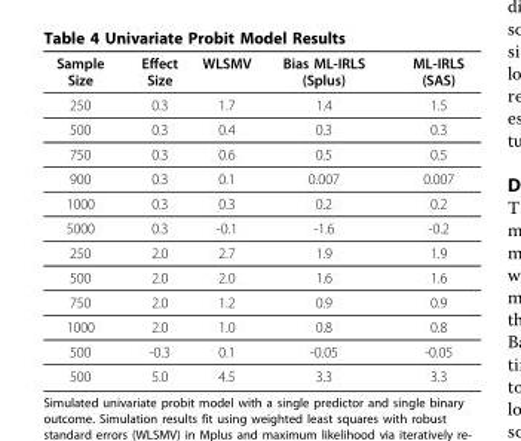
<table><thead><tr><td>Sample Size</td><td>Effect Size</td><td>WLSMV</td><td>Bias ML-IRLS (Splus)</td><td>ML-IRLS (SAS)</td></tr></thead><tbody><tr><td>250</td><td>0.3</td><td>1.7</td><td>1.4</td><td>1.5</td></tr><tr><td>500</td><td>0.3</td><td>0.4</td><td>0.3</td><td>0.3</td></tr><tr><td>750</td><td>0.3</td><td>0.6</td><td>0.5</td><td>0.5</td></tr><tr><td>900</td><td>0.3</td><td>0.1</td><td>0.007</td><td>0.007</td></tr><tr><td>1000</td><td>0.3</td><td>0.3</td><td>0.2</td><td>0.2</td></tr><tr><td>5000</td><td>0.3</td><td>-0.1</td><td>-1.6</td><td>-0.2</td></tr><tr><td>250</td><td>2.0</td><td>2.7</td><td>1.9</td><td>1.9</td></tr><tr><td>500</td><td>2.0</td><td>2.0</td><td>1.6</td><td>1.6</td></tr><tr><td>750</td><td>2.0</td><td>1.2</td><td>0.9</td><td>0.9</td></tr><tr><td>1000</td><td>2.0</td><td>1.0</td><td>0.8</td><td>0.8</td></tr><tr><td>500</td><td>-0.3</td><td>0.1</td><td>-0.05</td><td>-0.05</td></tr><tr><td>500</td><td>5.0</td><td>4.5</td><td>3.3</td><td>3.3</td></tr></tbody></table>